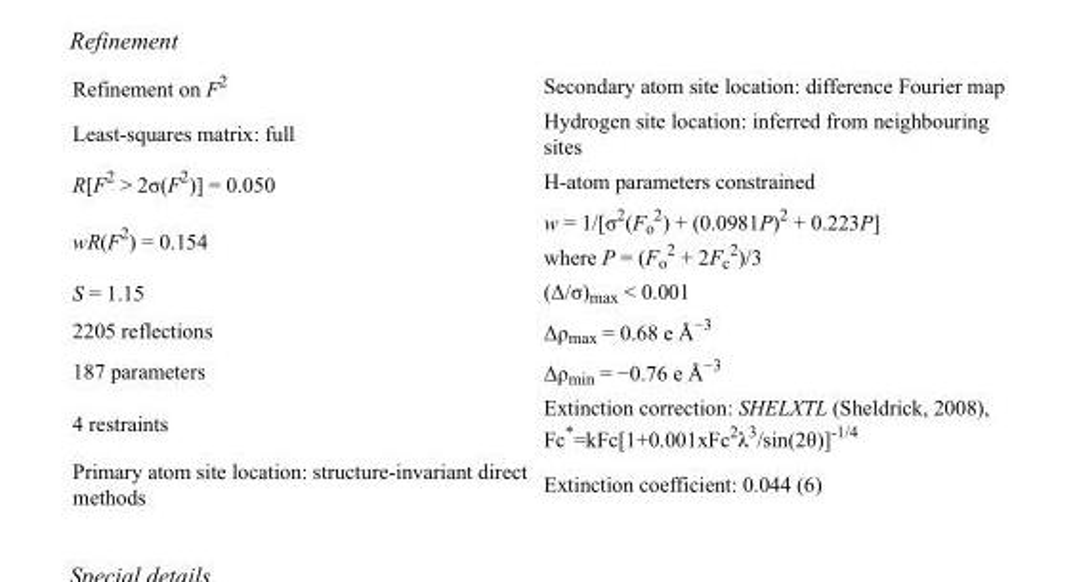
<table><tbody><tr><td>Refinement on F<sup>2</sup></td><td>Secondary atom site location: difference Fourier map</td></tr><tr><td>Least-squares matrix: full</td><td>Hydrogen site location: inferred from neighbouring sites</td></tr><tr><td>R[F<sup>2</sup> &gt; 2σ(F<sup>2</sup>)] = 0.050</td><td>H-atom parameters constrained</td></tr><tr><td>wR(F<sup>2</sup>) = 0.154</td><td>w = 1/[σ<sup>2</sup>(F<sub>o</sub> <sup>2</sup>) + (0.0981P)<sup>2</sup> + 0.223P] where P = (F<sub>o</sub> <sup>2</sup> + 2F<sub>c</sub> <sup>2</sup>)/3</td></tr><tr><td>S = 1.15</td><td>(Δ/σ)<sub>max</sub> &lt; 0.001</td></tr><tr><td>2205 reflections</td><td>Δρ<sub>max</sub> = 0.68 e Å<sup>−3</sup></td></tr><tr><td>187 parameters</td><td>Δρ<sub>min</sub> = −0.76 e Å<sup>−3</sup></td></tr><tr><td>4 restraints</td><td>Extinction correction: SHELXTL (Sheldrick, 2008), Fc*=kFc[1+0.001xFc<sup>2</sup>λ<sup>3</sup>/sin(2θ)]<sup>-1/4</sup></td></tr><tr><td>Primary atom site location: structure-invariant direct methods</td><td>Extinction coefficient: 0.044 (6)</td></tr></tbody></table>